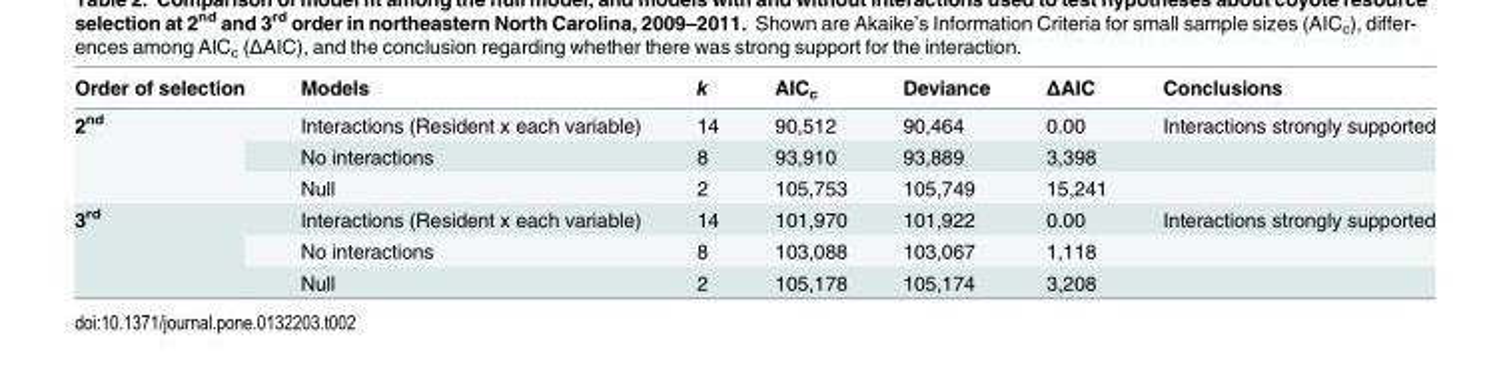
<table><thead><tr><td>Order of selection</td><td>Models</td><td>k</td><td>AIC<sub>c</sub></td><td>Deviance</td><td>ΔAIC</td><td>Conclusions</td></tr></thead><tbody><tr><td rowspan="3">2<sup>nd</sup></td><td>Interactions (Resident x each variable)</td><td>14</td><td>90,512</td><td>90,464</td><td>0.00</td><td>Interactions strongly supported</td></tr><tr><td>No interactions</td><td>8</td><td>93,910</td><td>93,889</td><td>3,398</td><td></td></tr><tr><td>Null</td><td>2</td><td>105,753</td><td>105,749</td><td>15,241</td><td></td></tr><tr><td rowspan="3">3<sup>rd</sup></td><td>Interactions (Resident x each variable)</td><td>14</td><td>101,970</td><td>101,922</td><td>0.00</td><td>Interactions strongly supported</td></tr><tr><td>No interactions</td><td>8</td><td>103,088</td><td>103,067</td><td>1,118</td><td></td></tr><tr><td>Null</td><td>2</td><td>105,178</td><td>105,174</td><td>3,208</td><td></td></tr></tbody></table>